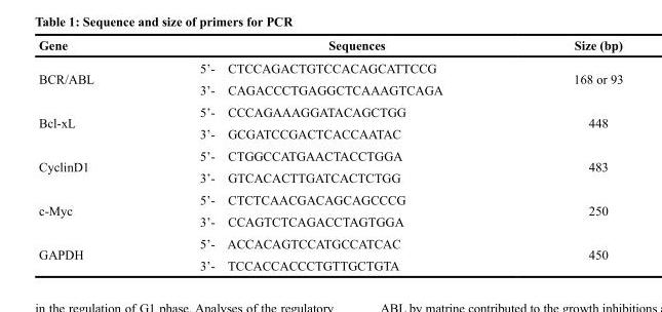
<table><thead><tr><td>Gene</td><td>Sequences</td><td>Size (bp)</td></tr></thead><tbody><tr><td rowspan="2">BCR/ABL</td><td>5’- CTCCAGACTGTCCACAGCATTCCG</td><td rowspan="2">168 or 93</td></tr><tr><td>3’- CAGACCCTGAGGCTCAAAGTCAGA</td></tr><tr><td rowspan="2">Bcl-xL</td><td>5’- CCCAGAAAGGATACAGCTGG</td><td rowspan="2">448</td></tr><tr><td>3’- GCGATCCGACTCACCAATAC</td></tr><tr><td rowspan="2">CyclinD1</td><td>5’- CTGGCCATGAACTACCTGGA</td><td rowspan="2">483</td></tr><tr><td>3’- GTCACACTTGATCACTCTGG</td></tr><tr><td rowspan="2">c-Myc</td><td>5’- CTCTCAACGACAGCAGCCCG</td><td rowspan="2">250</td></tr><tr><td>3’- CCAGTCTCAGACCTAGTGGA</td></tr><tr><td rowspan="2">GAPDH</td><td>5’- ACCACAGTCCATGCCATCAC</td><td rowspan="2">450</td></tr><tr><td>3’- TCCACCACCCTGTTGCTGTA</td></tr></tbody></table>